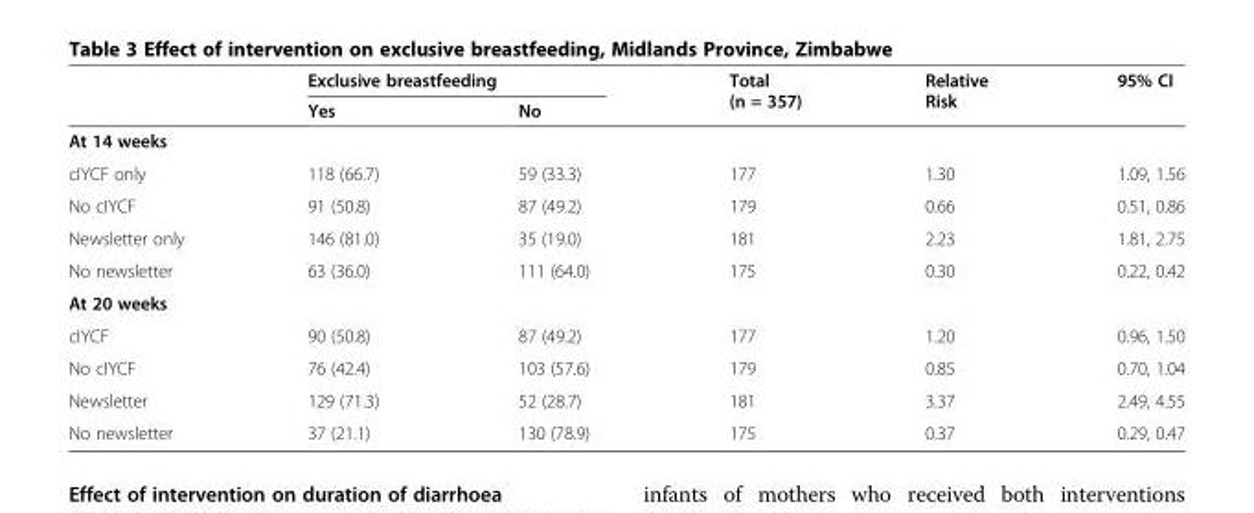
<table><thead><tr><td rowspan="2"></td><td colspan="2">Exclusive breastfeeding</td><td rowspan="2">Total (n = 357)</td><td rowspan="2">Relative Risk</td><td rowspan="2">95% CI</td></tr><tr><td>Yes</td><td>No</td></tr></thead><tbody><tr><td colspan="6">At 14 weeks</td></tr><tr><td>cIYCF only</td><td>118 (66.7)</td><td>59 (33.3)</td><td>177</td><td>1.30</td><td>1.09, 1.56</td></tr><tr><td>No cIYCF</td><td>91 (50.8)</td><td>87 (49.2)</td><td>179</td><td>0.66</td><td>0.51, 0.86</td></tr><tr><td>Newsletter only</td><td>146 (81.0)</td><td>35 (19.0)</td><td>181</td><td>2.23</td><td>1.81, 2.75</td></tr><tr><td>No newsletter</td><td>63 (36.0)</td><td>111 (64.0)</td><td>175</td><td>0.30</td><td>0.22, 0.42</td></tr><tr><td colspan="6">At 20 weeks</td></tr><tr><td>cIYCF</td><td>90 (50.8)</td><td>87 (49.2)</td><td>177</td><td>1.20</td><td>0.96, 1.50</td></tr><tr><td>No cIYCF</td><td>76 (42.4)</td><td>103 (57.6)</td><td>179</td><td>0.85</td><td>0.70, 1.04</td></tr><tr><td>Newsletter</td><td>129 (71.3)</td><td>52 (28.7)</td><td>181</td><td>3.37</td><td>2.49, 4.55</td></tr><tr><td>No newsletter</td><td>37 (21.1)</td><td>130 (78.9)</td><td>175</td><td>0.37</td><td>0.29, 0.47</td></tr></tbody></table>